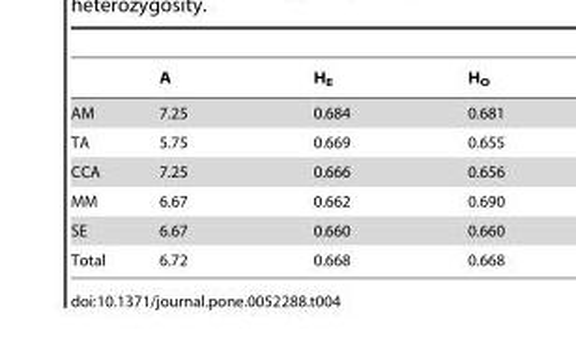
<table><thead><tr><td></td><td>A</td><td>H<sub>E</sub></td><td>H<sub>O</sub></td></tr></thead><tbody><tr><td>AM</td><td>7.25</td><td>0.684</td><td>0.681</td></tr><tr><td>TA</td><td>5.75</td><td>0.669</td><td>0.655</td></tr><tr><td>CCA</td><td>7.25</td><td>0.666</td><td>0.656</td></tr><tr><td>MM</td><td>6.67</td><td>0.662</td><td>0.690</td></tr><tr><td>SE</td><td>6.67</td><td>0.660</td><td>0.660</td></tr><tr><td>Total</td><td>6.72</td><td>0.668</td><td>0.668</td></tr></tbody></table>